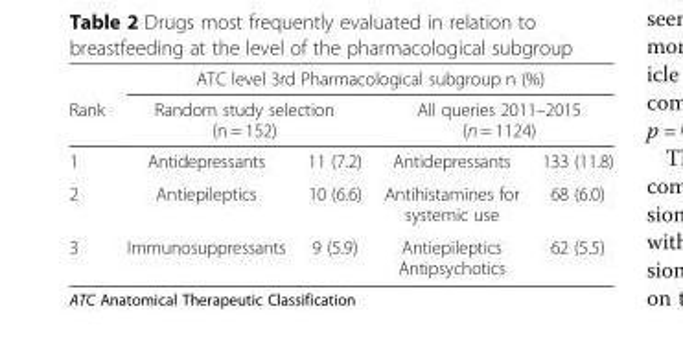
<table><thead><tr><td rowspan="3">Rank 1</td><td colspan="4">ATC level 3rd Pharmacological subgroup n (%)</td></tr><tr><td colspan="2">Random study selection (n = 152)</td><td colspan="2">All queries 2011–2015 (n = 1124)</td></tr><tr><td>Antidepressants</td><td>11 (7.2)</td><td>Antidepressants</td><td>133 (11.8)</td></tr></thead><tbody><tr><td>2</td><td>Antiepileptics</td><td>10 (6.6)</td><td>Antihistamines for systemic use</td><td>68 (6.0)</td></tr><tr><td>3</td><td>Immunosuppressants</td><td>9 (5.9)</td><td>Antiepileptics Antipsychotics</td><td>62 (5.5)</td></tr></tbody></table>